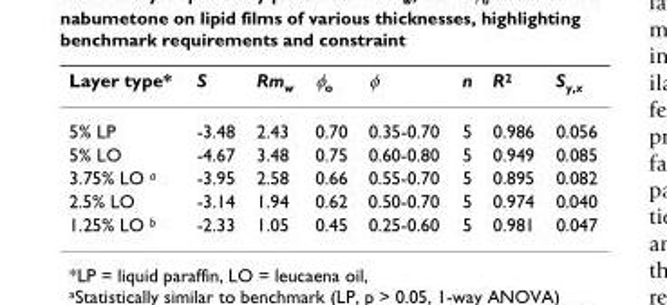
<table><thead><tr><td>Layer type*</td><td>S</td><td>Rm<sub>w</sub></td><td>φ<sub>o</sub></td><td>φ</td><td>n</td><td>R<sup>2</sup></td><td>S<sub>y,x</sub></td></tr></thead><tbody><tr><td>5% LP</td><td>-3.48</td><td>2.43</td><td>0.70</td><td>0.35-0.70</td><td>5</td><td>0.986</td><td>0.056</td></tr><tr><td>5% LO</td><td>-4.67</td><td>3.48</td><td>0.75</td><td>0.60-0.80</td><td>5</td><td>0.949</td><td>0.085</td></tr><tr><td>3.75% LO <sup>a</sup></td><td>-3.95</td><td>2.58</td><td>0.66</td><td>0.55-0.70</td><td>5</td><td>0.895</td><td>0.082</td></tr><tr><td>2.5% LO</td><td>-3.14</td><td>1.94</td><td>0.62</td><td>0.50-0.70</td><td>5</td><td>0.974</td><td>0.040</td></tr><tr><td>1.25% LO <sup>b</sup></td><td>-2.33</td><td>1.05</td><td>0.45</td><td>0.25-0.60</td><td>5</td><td>0.981</td><td>0.047</td></tr></tbody></table>